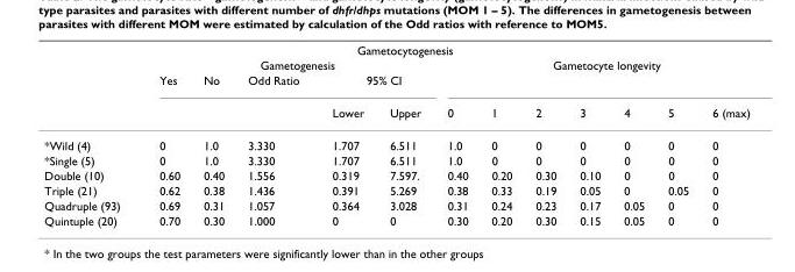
<table><thead><tr><td colspan="13">Gametocytogenesis</td></tr><tr><td rowspan="3"></td><td colspan="5">Gametogenesis</td><td colspan="7">Gametocyte longevity</td></tr><tr><td rowspan="2">Yes</td><td rowspan="2">No</td><td rowspan="2">Odd Ratio</td><td colspan="2">95% CI</td><td rowspan="2">0</td><td rowspan="2">1</td><td rowspan="2">2</td><td rowspan="2">3</td><td rowspan="2">4</td><td rowspan="2">5</td><td rowspan="2">6 (max)</td></tr><tr><td>Lower</td><td>Upper</td></tr></thead><tbody><tr><td>*Wild (4)</td><td>0</td><td>1.0</td><td>3.330</td><td>1.707</td><td>6.511</td><td>1.0</td><td>0</td><td>0</td><td>0</td><td>0</td><td>0</td><td>0</td></tr><tr><td>*Single (5)</td><td>0</td><td>1.0</td><td>3.330</td><td>1.707</td><td>6.511</td><td>1.0</td><td>0</td><td>0</td><td>0</td><td>0</td><td>0</td><td>0</td></tr><tr><td>Double (10)</td><td>0.60</td><td>0.40</td><td>1.556</td><td>0.319</td><td>7.597.</td><td>0.40</td><td>0.20</td><td>0.30</td><td>0.10</td><td>0</td><td>0</td><td>0</td></tr><tr><td>Triple (21)</td><td>0.62</td><td>0.38</td><td>1.436</td><td>0.391</td><td>5.269</td><td>0.38</td><td>0.33</td><td>0.19</td><td>0.05</td><td>0</td><td>0.05</td><td>0</td></tr><tr><td>Quadruple (93)</td><td>0.69</td><td>0.31</td><td>1.057</td><td>0.364</td><td>3.028</td><td>0.31</td><td>0.24</td><td>0.23</td><td>0.17</td><td>0.05</td><td>0</td><td>0</td></tr><tr><td>Quintuple (20)</td><td>0.70</td><td>0.30</td><td>1.000</td><td>0</td><td>0</td><td>0.30</td><td>0.20</td><td>0.30</td><td>0.15</td><td>0.05</td><td>0</td><td>0</td></tr></tbody></table>